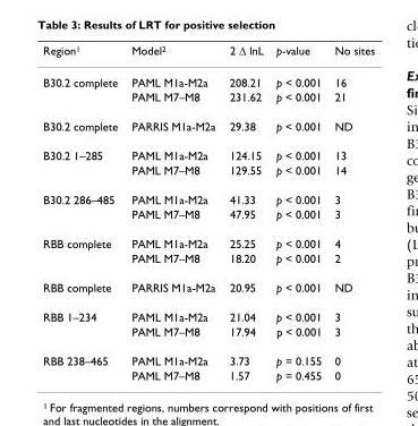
<table><thead><tr><td>Region<sup>1</sup></td><td>Model<sup>2</sup></td><td>2 Δ lnL</td><td>p-value</td><td>No sites</td></tr></thead><tbody><tr><td rowspan="2">B30.2 complete</td><td>PAML M1a-M2a</td><td>208.21</td><td>p &lt; 0.001</td><td>16</td></tr><tr><td>PAML M7–M8</td><td>231.62</td><td>p &lt; 0.001</td><td>21</td></tr><tr><td>B30.2 complete</td><td>PARRIS M1a-M2a</td><td>29.38</td><td>p &lt; 0.001</td><td>ND</td></tr><tr><td rowspan="2">B30.2 1–285</td><td>PAML M1a-M2a</td><td>124.15</td><td>p &lt; 0.001</td><td>13</td></tr><tr><td>PAML M7–M8</td><td>129.55</td><td>p &lt; 0.001</td><td>14</td></tr><tr><td rowspan="2">B30.2 286–485</td><td>PAML M1a-M2a</td><td>41.33</td><td>p &lt; 0.001</td><td>3</td></tr><tr><td>PAML M7–M8</td><td>47.95</td><td>p &lt; 0.001</td><td>3</td></tr><tr><td rowspan="2">RBB complete</td><td>PAML M1a-M2a</td><td>25.25</td><td>p &lt; 0.001</td><td>4</td></tr><tr><td>PAML M7–M8</td><td>18.20</td><td>p &lt; 0.001</td><td>2</td></tr><tr><td>RBB complete</td><td>PARRIS M1a-M2a</td><td>20.95</td><td>p &lt; 0.001</td><td>ND</td></tr><tr><td rowspan="2">RBB 1–234</td><td>PAML M1a-M2a</td><td>21.04</td><td>p &lt; 0.001</td><td>3</td></tr><tr><td>PAML M7–M8</td><td>17.94</td><td>p &lt; 0.001</td><td>3</td></tr><tr><td rowspan="2">RBB 238–465</td><td>PAML M1a-M2a</td><td>3.73</td><td>p = 0.155</td><td>0</td></tr><tr><td>PAML M7–M8</td><td>1.57</td><td>p = 0.455</td><td>0</td></tr></tbody></table>